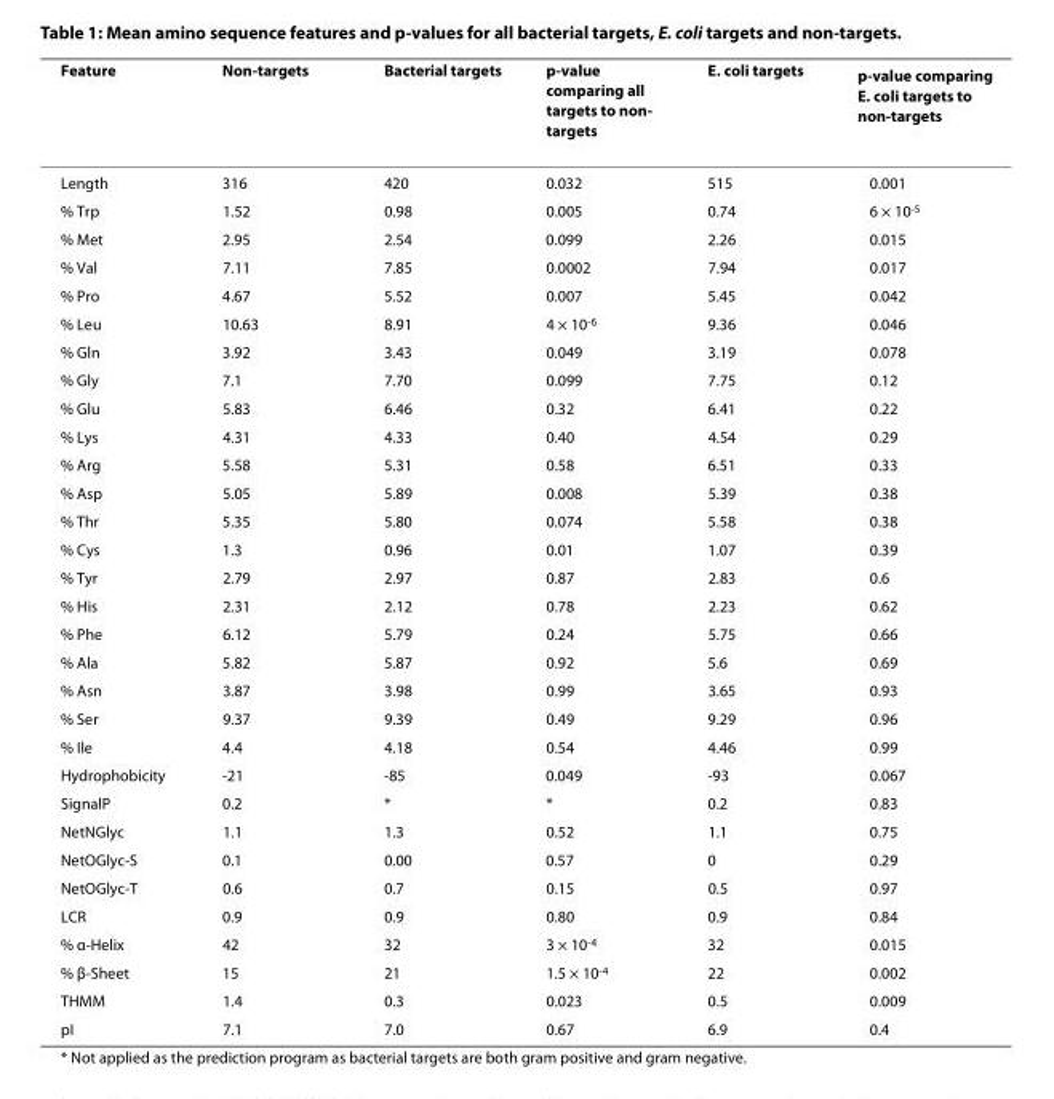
<table><thead><tr><td>Feature</td><td>Non-targets</td><td>Bacterial targets</td><td>p-value comparing all targets to non- targets</td><td>E. coli targets</td><td>p-value comparing E. coli targets to non-targets</td></tr></thead><tbody><tr><td>Length</td><td>316</td><td>420</td><td>0.032</td><td>515</td><td>0.001</td></tr><tr><td>% Trp</td><td>1.52</td><td>0.98</td><td>0.005</td><td>0.74</td><td>6 × 10<sup>-5</sup></td></tr><tr><td>% Met</td><td>2.95</td><td>2.54</td><td>0.099</td><td>2.26</td><td>0.015</td></tr><tr><td>% Val</td><td>7.11</td><td>7.85</td><td>0.0002</td><td>7.94</td><td>0.017</td></tr><tr><td>% Pro</td><td>4.67</td><td>5.52</td><td>0.007</td><td>5.45</td><td>0.042</td></tr><tr><td>% Leu</td><td>10.63</td><td>8.91</td><td>4 × 10<sup>-6</sup></td><td>9.36</td><td>0.046</td></tr><tr><td>% Gln</td><td>3.92</td><td>3.43</td><td>0.049</td><td>3.19</td><td>0.078</td></tr><tr><td>% Gly</td><td>7.1</td><td>7.70</td><td>0.099</td><td>7.75</td><td>0.12</td></tr><tr><td>% Glu</td><td>5.83</td><td>6.46</td><td>0.32</td><td>6.41</td><td>0.22</td></tr><tr><td>% Lys</td><td>4.31</td><td>4.33</td><td>0.40</td><td>4.54</td><td>0.29</td></tr><tr><td>% Arg</td><td>5.58</td><td>5.31</td><td>0.58</td><td>6.51</td><td>0.33</td></tr><tr><td>% Asp</td><td>5.05</td><td>5.89</td><td>0.008</td><td>5.39</td><td>0.38</td></tr><tr><td>% Thr</td><td>5.35</td><td>5.80</td><td>0.074</td><td>5.58</td><td>0.38</td></tr><tr><td>% Cys</td><td>1.3</td><td>0.96</td><td>0.01</td><td>1.07</td><td>0.39</td></tr><tr><td>% Tyr</td><td>2.79</td><td>2.97</td><td>0.87</td><td>2.83</td><td>0.6</td></tr><tr><td>% His</td><td>2.31</td><td>2.12</td><td>0.78</td><td>2.23</td><td>0.62</td></tr><tr><td>% Phe</td><td>6.12</td><td>5.79</td><td>0.24</td><td>5.75</td><td>0.66</td></tr><tr><td>% Ala</td><td>5.82</td><td>5.87</td><td>0.92</td><td>5.6</td><td>0.69</td></tr><tr><td>% Asn</td><td>3.87</td><td>3.98</td><td>0.99</td><td>3.65</td><td>0.93</td></tr><tr><td>% Ser</td><td>9.37</td><td>9.39</td><td>0.49</td><td>9.29</td><td>0.96</td></tr><tr><td>% Ile</td><td>4.4</td><td>4.18</td><td>0.54</td><td>4.46</td><td>0.99</td></tr><tr><td>Hydrophobicity</td><td>-21</td><td>-85</td><td>0.049</td><td>-93</td><td>0.067</td></tr><tr><td>SignalP</td><td>0.2</td><td>*</td><td>*</td><td>0.2</td><td>0.83</td></tr><tr><td>NetNGlyc</td><td>1.1</td><td>1.3</td><td>0.52</td><td>1.1</td><td>0.75</td></tr><tr><td>NetOGlyc-S</td><td>0.1</td><td>0.00</td><td>0.57</td><td>0</td><td>0.29</td></tr><tr><td>NetOGlyc-T</td><td>0.6</td><td>0.7</td><td>0.15</td><td>0.5</td><td>0.97</td></tr><tr><td>LCR</td><td>0.9</td><td>0.9</td><td>0.80</td><td>0.9</td><td>0.84</td></tr><tr><td>% α-Helix</td><td>42</td><td>32</td><td>3 × 10<sup>-4</sup></td><td>32</td><td>0.015</td></tr><tr><td>% β-Sheet</td><td>15</td><td>21</td><td>1.5 × 10<sup>-4</sup></td><td>22</td><td>0.002</td></tr><tr><td>THMM</td><td>1.4</td><td>0.3</td><td>0.023</td><td>0.5</td><td>0.009</td></tr><tr><td>pI</td><td>7.1</td><td>7.0</td><td>0.67</td><td>6.9</td><td>0.4</td></tr></tbody></table>